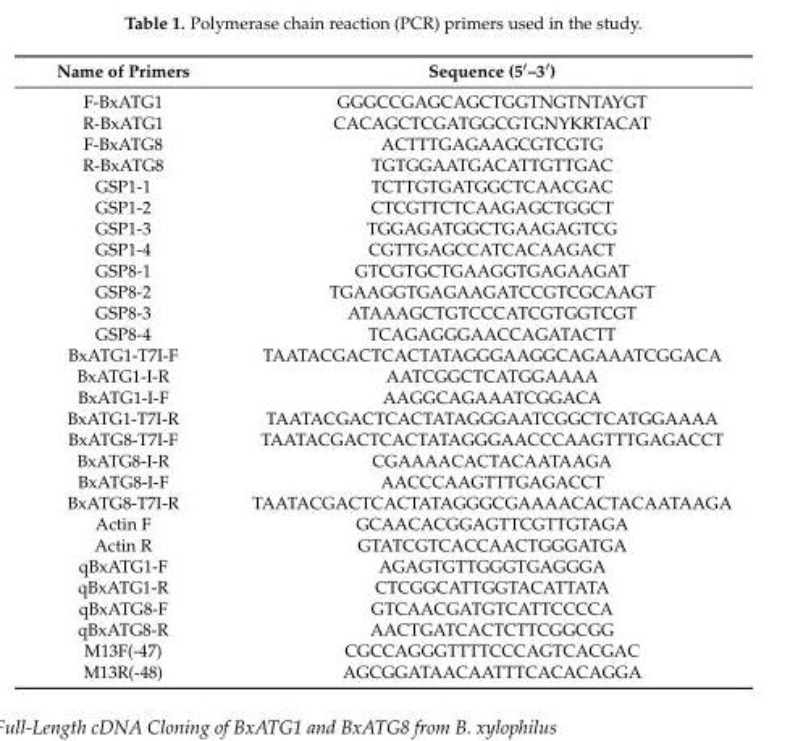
<table><thead><tr><td>Name of Primers</td><td>Sequence (5′–3′)</td></tr></thead><tbody><tr><td>F-BxATG1</td><td>GGGCCGAGCAGCTGGTNGTNTAYGT</td></tr><tr><td>R-BxATG1</td><td>CACAGCTCGATGGCGTGNYKRTACAT</td></tr><tr><td>F-BxATG8</td><td>ACTTTGAGAAGCGTCGTG</td></tr><tr><td>R-BxATG8</td><td>TGTGGAATGACATTGTTGAC</td></tr><tr><td>GSP1-1</td><td>TCTTGTGATGGCTCAACGAC</td></tr><tr><td>GSP1-2</td><td>CTCGTTCTCAAGAGCTGGCT</td></tr><tr><td>GSP1-3</td><td>TGGAGATGGCTGAAGAGTCG</td></tr><tr><td>GSP1-4</td><td>CGTTGAGCCATCACAAGACT</td></tr><tr><td>GSP8-1</td><td>GTCGTGCTGAAGGTGAGAAGAT</td></tr><tr><td>GSP8-2</td><td>TGAAGGTGAGAAGATCCGTCGCAAGT</td></tr><tr><td>GSP8-3</td><td>ATAAAGCTGTCCCATCGTGGTCGT</td></tr><tr><td>GSP8-4</td><td>TCAGAGGGAACCAGATACTT</td></tr><tr><td>BxATG1-T7I-F</td><td>TAATACGACTCACTATAGGGAAGGCAGAAATCGGACA</td></tr><tr><td>BxATG1-I-R</td><td>AATCGGCTCATGGAAAA</td></tr><tr><td>BxATG1-I-F</td><td>AAGGCAGAAATCGGACA</td></tr><tr><td>BxATG1-T7I-R</td><td>TAATACGACTCACTATAGGGAATCGGCTCATGGAAAA</td></tr><tr><td>BxATG8-T7I-F</td><td>TAATACGACTCACTATAGGGAACCCAAGTTTGAGACCT</td></tr><tr><td>BxATG8-I-R</td><td>CGAAAACACTACAATAAGA</td></tr><tr><td>BxATG8-I-F</td><td>AACCCAAGTTTGAGACCT</td></tr><tr><td>BxATG8-T7I-R</td><td>TAATACGACTCACTATAGGGCGAAAACACTACAATAAGA</td></tr><tr><td>Actin F</td><td>GCAACACGGAGTTCGTTGTAGA</td></tr><tr><td>Actin R</td><td>GTATCGTCACCAACTGGGATGA</td></tr><tr><td>qBxATG1-F</td><td>AGAGTGTTGGGTGAGGGA</td></tr><tr><td>qBxATG1-R</td><td>CTCGGCATTGGTACATTATA</td></tr><tr><td>qBxATG8-F</td><td>GTCAACGATGTCATTCCCCA</td></tr><tr><td>qBxATG8-R</td><td>AACTGATCACTCTTCGGCGG</td></tr><tr><td>M13F(-47)</td><td>CGCCAGGGTTTTCCCAGTCACGAC</td></tr><tr><td>M13R(-48)</td><td>AGCGGATAACAATTTCACACAGGA</td></tr></tbody></table>